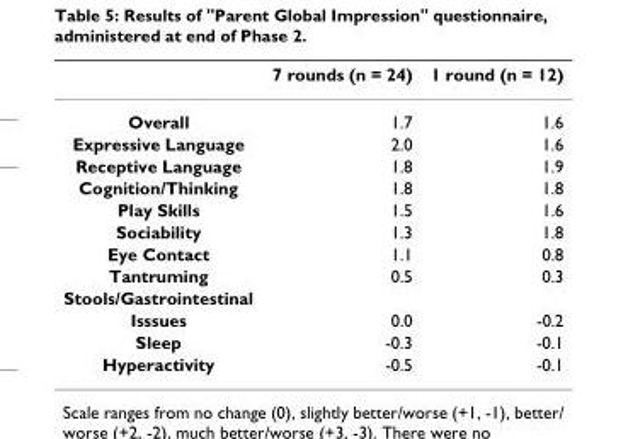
<table><thead><tr><td></td><td>7 rounds (n = 24)</td><td>1 round (n = 12)</td></tr></thead><tbody><tr><td>Overall</td><td>1.7</td><td>1.6</td></tr><tr><td>Expressive Language</td><td>2.0</td><td>1.6</td></tr><tr><td>Receptive Language</td><td>1.8</td><td>1.9</td></tr><tr><td>Cognition/Thinking</td><td>1.8</td><td>1.8</td></tr><tr><td>Play Skills</td><td>1.5</td><td>1.6</td></tr><tr><td>Sociability</td><td>1.3</td><td>1.8</td></tr><tr><td>Eye Contact</td><td>1.1</td><td>0.8</td></tr><tr><td>Tantruming</td><td>0.5</td><td>0.3</td></tr><tr><td colspan="3">Stools/Gastrointestinal</td></tr><tr><td>Isssues</td><td>0.0</td><td>-0.2</td></tr><tr><td>Sleep</td><td>-0.3</td><td>-0.1</td></tr><tr><td>Hyperactivity</td><td>-0.5</td><td>-0.1</td></tr></tbody></table>